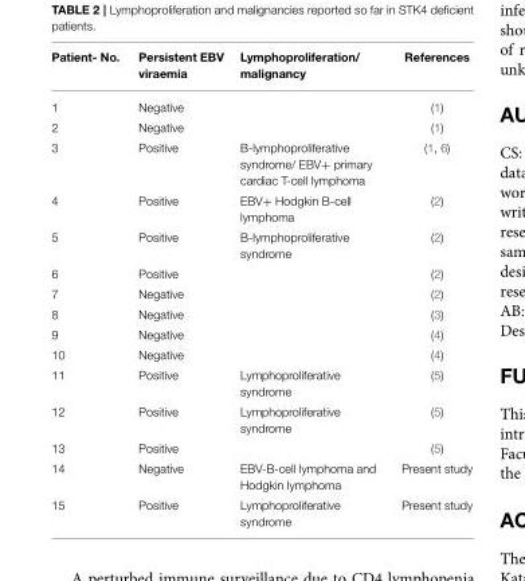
<table><thead><tr><td>Patient- No.</td><td>Persistent EBV viraemia</td><td>Lymphoproliferation/ malignancy</td><td>References</td></tr></thead><tbody><tr><td>1</td><td>Negative</td><td></td><td>(1)</td></tr><tr><td>2</td><td>Negative</td><td></td><td>(1)</td></tr><tr><td>3</td><td>Positive</td><td>B-lymphoproliferative syndrome/ EBV+ primary cardiac T-cell lymphoma</td><td>(1, 6)</td></tr><tr><td>4</td><td>Positive</td><td>EBV+ Hodgkin B-cell lymphoma</td><td>(2)</td></tr><tr><td>5</td><td>Positive</td><td>B-lymphoproliferative syndrome</td><td>(2)</td></tr><tr><td>6</td><td>Positive</td><td></td><td>(2)</td></tr><tr><td>7</td><td>Negative</td><td></td><td>(2)</td></tr><tr><td>8</td><td>Negative</td><td></td><td>(3)</td></tr><tr><td>9</td><td>Negative</td><td></td><td>(4)</td></tr><tr><td>10</td><td>Negative</td><td></td><td>(4)</td></tr><tr><td>11</td><td>Positive</td><td>Lymphoproliferative syndrome</td><td>(5)</td></tr><tr><td>12</td><td>Positive</td><td>Lymphoproliferative syndrome</td><td>(5)</td></tr><tr><td>13</td><td>Positive</td><td></td><td>(5)</td></tr><tr><td>14</td><td>Negative</td><td>EBV-B-cell lymphoma and Hodgkin lymphoma</td><td>Present study</td></tr><tr><td>15</td><td>Positive</td><td>Lymphoproliferative syndrome</td><td>Present study</td></tr></tbody></table>